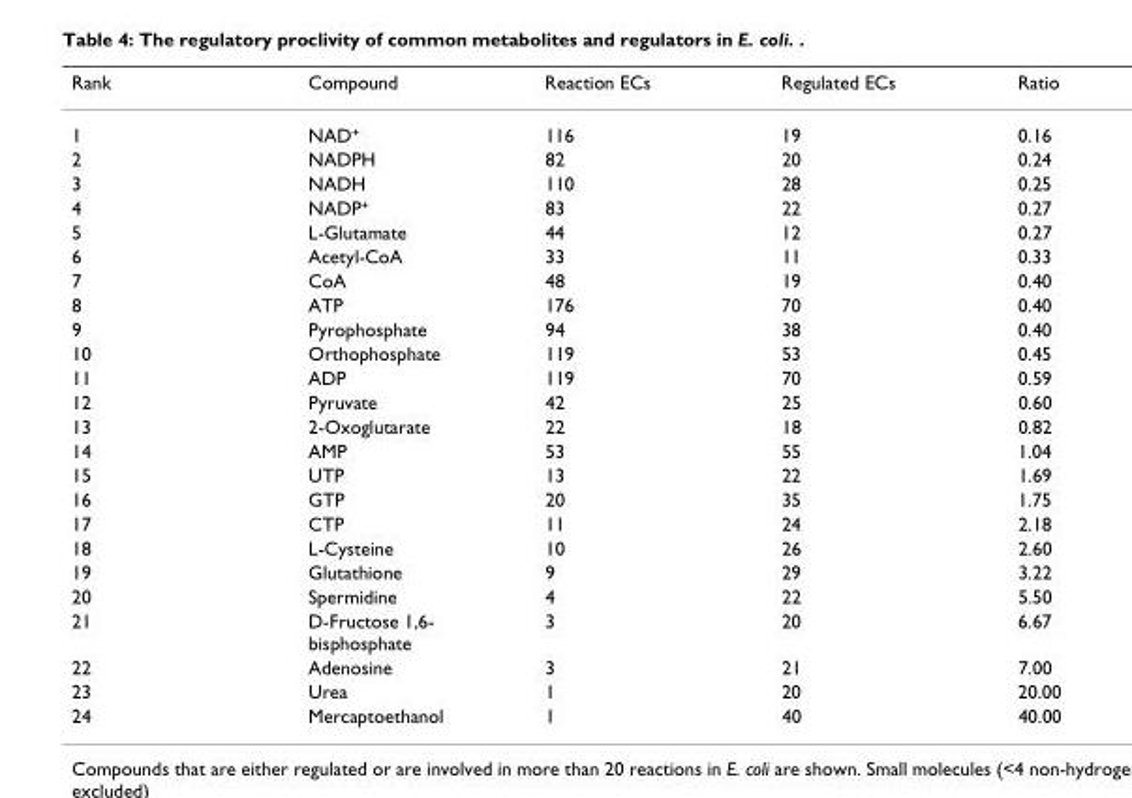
<table><thead><tr><td>Rank</td><td>Compound</td><td>Reaction ECs</td><td>Regulated ECs</td><td>Ratio</td></tr></thead><tbody><tr><td>1</td><td>NAD<sup>+</sup></td><td>116</td><td>19</td><td>0.16</td></tr><tr><td>2</td><td>NADPH</td><td>82</td><td>20</td><td>0.24</td></tr><tr><td>3</td><td>NADH</td><td>110</td><td>28</td><td>0.25</td></tr><tr><td>4</td><td>NADP<sup>+</sup></td><td>83</td><td>22</td><td>0.27</td></tr><tr><td>5</td><td>L-Glutamate</td><td>44</td><td>12</td><td>0.27</td></tr><tr><td>6</td><td>Acetyl-CoA</td><td>33</td><td>11</td><td>0.33</td></tr><tr><td>7</td><td>CoA</td><td>48</td><td>19</td><td>0.40</td></tr><tr><td>8</td><td>ATP</td><td>176</td><td>70</td><td>0.40</td></tr><tr><td>9</td><td>Pyrophosphate</td><td>94</td><td>38</td><td>0.40</td></tr><tr><td>10</td><td>Orthophosphate</td><td>119</td><td>53</td><td>0.45</td></tr><tr><td>11</td><td>ADP</td><td>119</td><td>70</td><td>0.59</td></tr><tr><td>12</td><td>Pyruvate</td><td>42</td><td>25</td><td>0.60</td></tr><tr><td>13</td><td>2-Oxoglutarate</td><td>22</td><td>18</td><td>0.82</td></tr><tr><td>14</td><td>AMP</td><td>53</td><td>55</td><td>1.04</td></tr><tr><td>15</td><td>UTP</td><td>13</td><td>22</td><td>1.69</td></tr><tr><td>16</td><td>GTP</td><td>20</td><td>35</td><td>1.75</td></tr><tr><td>17</td><td>CTP</td><td>11</td><td>24</td><td>2.18</td></tr><tr><td>18</td><td>L-Cysteine</td><td>10</td><td>26</td><td>2.60</td></tr><tr><td>19</td><td>Glutathione</td><td>9</td><td>29</td><td>3.22</td></tr><tr><td>20</td><td>Spermidine</td><td>4</td><td>22</td><td>5.50</td></tr><tr><td>21</td><td>D-Fructose 1,6- bisphosphate</td><td>3</td><td>20</td><td>6.67</td></tr><tr><td>22</td><td>Adenosine</td><td>3</td><td>21</td><td>7.00</td></tr><tr><td>23</td><td>Urea</td><td>1</td><td>20</td><td>20.00</td></tr><tr><td>24</td><td>Mercaptoethanol</td><td>1</td><td>40</td><td>40.00</td></tr></tbody></table>